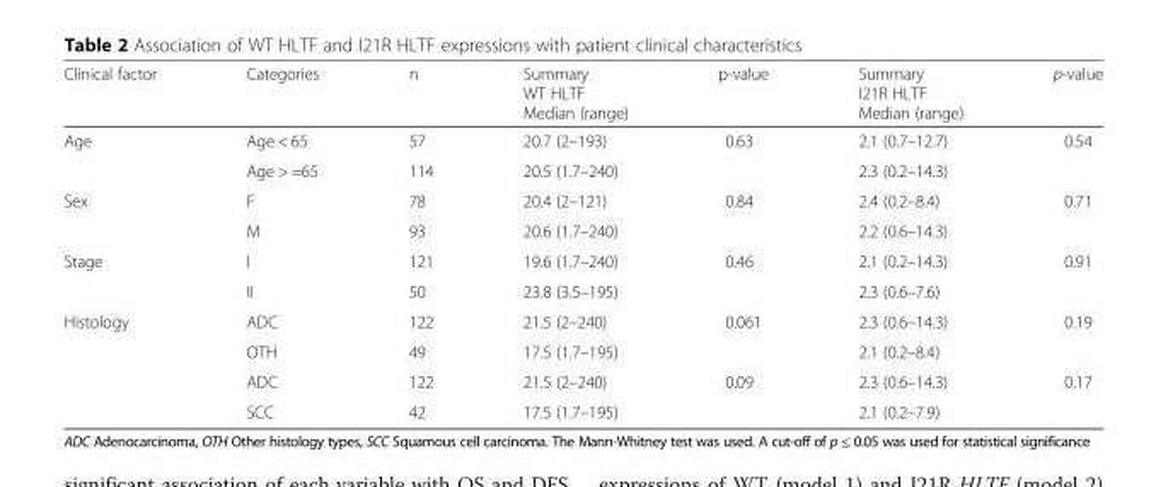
<table><thead><tr><td>Clinical factor</td><td>Categories</td><td>n</td><td>Summary WT HLTF Median (range)</td><td>p-value</td><td>Summary I21R HLTF Median (range)</td><td>p-value</td></tr></thead><tbody><tr><td rowspan="2">Age</td><td>Age &lt; 65</td><td>57</td><td>20.7 (2–193)</td><td rowspan="2">0.63</td><td>2.1 (0.7–12.7)</td><td rowspan="2">0.54</td></tr><tr><td>Age &gt; =65</td><td>114</td><td>20.5 (1.7–240)</td><td>2.3 (0.2–14.3)</td></tr><tr><td rowspan="2">Sex</td><td>F</td><td>78</td><td>20.4 (2–121)</td><td rowspan="2">0.84</td><td>2.4 (0.2–8.4)</td><td rowspan="2">0.71</td></tr><tr><td>M</td><td>93</td><td>20.6 (1.7–240)</td><td>2.2 (0.6–14.3)</td></tr><tr><td rowspan="2">Stage</td><td>I</td><td>121</td><td>19.6 (1.7–240)</td><td rowspan="2">0.46</td><td>2.1 (0.2–14.3)</td><td rowspan="2">0.91</td></tr><tr><td>II</td><td>50</td><td>23.8 (3.5–195)</td><td>2.3 (0.6–7.6)</td></tr><tr><td rowspan="4">Histology</td><td>ADC</td><td>122</td><td>21.5 (2–240)</td><td rowspan="2">0.061</td><td>2.3 (0.6–14.3)</td><td rowspan="2">0.19</td></tr><tr><td>OTH</td><td>49</td><td>17.5 (1.7–195)</td><td>2.1 (0.2–8.4)</td></tr><tr><td>ADC</td><td>122</td><td>21.5 (2–240)</td><td rowspan="2">0.09</td><td>2.3 (0.6–14.3)</td><td rowspan="2">0.17</td></tr><tr><td>SCC</td><td>42</td><td>17.5 (1.7–195)</td><td>2.1 (0.2–7.9)</td></tr></tbody></table>